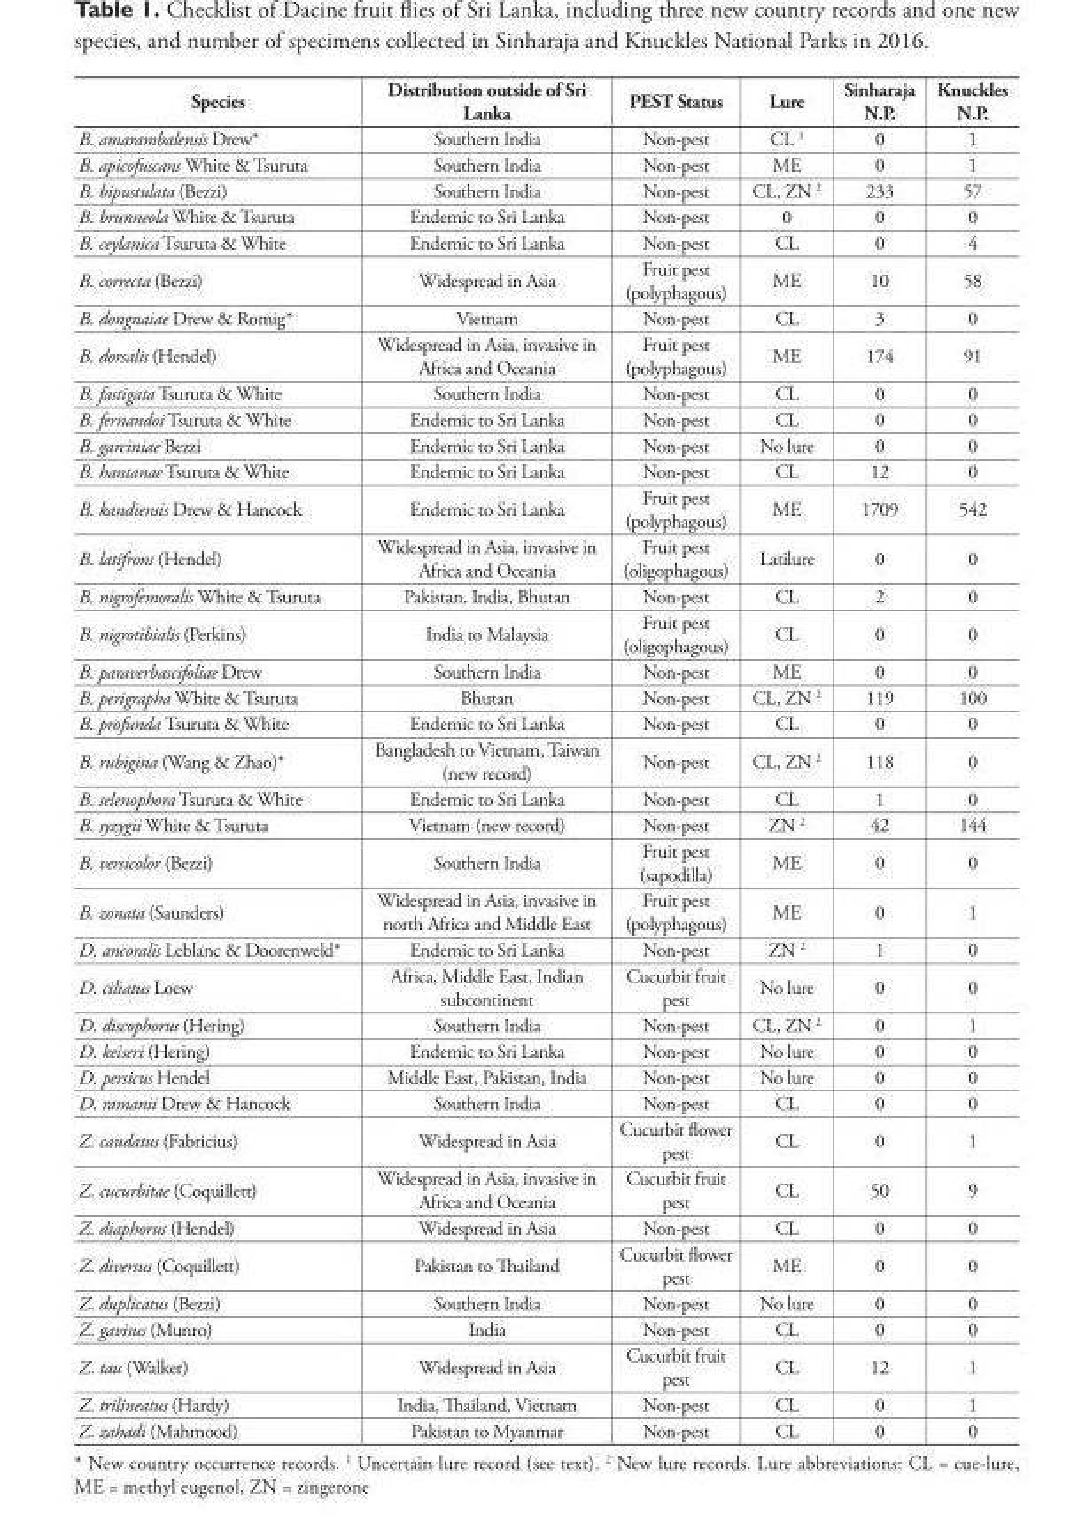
<table><thead><tr><td>Species</td><td>Distribution outside of Sri Lanka</td><td>PEST Status</td><td>Lure</td><td>Sinharaja N.P.</td><td>Knuckles N.P.</td></tr></thead><tbody><tr><td>B. amarambalensis Drew*</td><td>Southern India</td><td>Non-pest</td><td>CL <sup>1</sup></td><td>0</td><td>1</td></tr><tr><td>B. apicofuscans White &amp; Tsuruta</td><td>Southern India</td><td>Non-pest</td><td>ME</td><td>0</td><td>1</td></tr><tr><td>B. bipustulata (Bezzi)</td><td>Southern India</td><td>Non-pest</td><td>CL, ZN <sup>2</sup></td><td>233</td><td>57</td></tr><tr><td>B. brunneola White &amp; Tsuruta</td><td>Endemic to Sri Lanka</td><td>Non-pest</td><td>0</td><td>0</td><td>0</td></tr><tr><td>B. ceylanica Tsuruta &amp; White</td><td>Endemic to Sri Lanka</td><td>Non-pest</td><td>CL</td><td>0</td><td>4</td></tr><tr><td>B. correcta (Bezzi)</td><td>Widespread in Asia</td><td>Fruit pest (polyphagous)</td><td>ME</td><td>10</td><td>58</td></tr><tr><td>B. dongnaiae Drew &amp; Romig*</td><td>Vietnam</td><td>Non-pest</td><td>CL</td><td>3</td><td>0</td></tr><tr><td>B. dorsalis (Hendel)</td><td>Widespread in Asia, invasive in Africa and Oceania</td><td>Fruit pest (polyphagous)</td><td>ME</td><td>174</td><td>91</td></tr><tr><td>B. fastigata Tsuruta &amp; White</td><td>Southern India</td><td>Non-pest</td><td>CL</td><td>0</td><td>0</td></tr><tr><td>B. fernandoi Tsuruta &amp; White</td><td>Endemic to Sri Lanka</td><td>Non-pest</td><td>CL</td><td>0</td><td>0</td></tr><tr><td>B. garciniae Bezzi</td><td>Endemic to Sri Lanka</td><td>Non-pest</td><td>No lure</td><td>0</td><td>0</td></tr><tr><td>B. hantanae Tsuruta &amp; White</td><td>Endemic to Sri Lanka</td><td>Non-pest</td><td>CL</td><td>12</td><td>0</td></tr><tr><td>B. kandiensis Drew &amp; Hancock</td><td>Endemic to Sri Lanka</td><td>Fruit pest (polyphagous)</td><td>ME</td><td>1709</td><td>542</td></tr><tr><td>B. latifrons (Hendel)</td><td>Widespread in Asia, invasive in Africa and Oceania</td><td>Fruit pest (oligophagous)</td><td>Latilure</td><td>0</td><td>0</td></tr><tr><td>B. nigrofemoralis White &amp; Tsuruta</td><td>Pakistan, India, Bhutan</td><td>Non-pest</td><td>CL</td><td>2</td><td>0</td></tr><tr><td>B. nigrotibialis (Perkins)</td><td>India to Malaysia</td><td>Fruit pest (oligophagous)</td><td>CL</td><td>0</td><td>0</td></tr><tr><td>B. paraverbascifoliae Drew</td><td>Southern India</td><td>Non-pest</td><td>ME</td><td>0</td><td>0</td></tr><tr><td>B. perigrapha White &amp; Tsuruta</td><td>Bhutan</td><td>Non-pest</td><td>CL, ZN <sup>2</sup></td><td>119</td><td>100</td></tr><tr><td>B. profunda Tsuruta &amp; White</td><td>Endemic to Sri Lanka</td><td>Non-pest</td><td>CL</td><td>0</td><td>0</td></tr><tr><td>B. rubigina (Wang &amp; Zhao)*</td><td>Bangladesh to Vietnam, Taiwan (new record)</td><td>Non-pest</td><td>CL, ZN <sup>2</sup></td><td>118</td><td>0</td></tr><tr><td>B. selenophora Tsuruta &amp; White</td><td>Endemic to Sri Lanka</td><td>Non-pest</td><td>CL</td><td>1</td><td>0</td></tr><tr><td>B. syzygii White &amp; Tsuruta</td><td>Vietnam (new record)</td><td>Non-pest</td><td>ZN <sup>2</sup></td><td>42</td><td>144</td></tr><tr><td>B. versicolor (Bezzi)</td><td>Southern India</td><td>Fruit pest (sapodilla)</td><td>ME</td><td>0</td><td>0</td></tr><tr><td>B. zonata (Saunders)</td><td>Widespread in Asia, invasive in north Africa and Middle East</td><td>Fruit pest (polyphagous)</td><td>ME</td><td>0</td><td>1</td></tr><tr><td>D. ancoralis Leblanc &amp; Doorenweld*</td><td>Endemic to Sri Lanka</td><td>Non-pest</td><td>ZN <sup>2</sup></td><td>1</td><td>0</td></tr><tr><td>D. ciliatus Loew</td><td>Africa, Middle East, Indian subcontinent</td><td>Cucurbit fruit pest</td><td>No lure</td><td>0</td><td>0</td></tr><tr><td>D. discophorus (Hering)</td><td>Southern India</td><td>Non-pest</td><td>CL, ZN <sup>2</sup></td><td>0</td><td>1</td></tr><tr><td>D. keiseri (Hering)</td><td>Endemic to Sri Lanka</td><td>Non-pest</td><td>No lure</td><td>0</td><td>0</td></tr><tr><td>D. persicus Hendel</td><td>Middle East, Pakistan, India</td><td>Non-pest</td><td>No lure</td><td>0</td><td>0</td></tr><tr><td>D. ramanii Drew &amp; Hancock</td><td>Southern India</td><td>Non-pest</td><td>CL</td><td>0</td><td>0</td></tr><tr><td>Z. caudatus (Fabricius)</td><td>Widespread in Asia</td><td>Cucurbit flower pest</td><td>CL</td><td>0</td><td>1</td></tr><tr><td>Z. cucurbitae (Coquillett)</td><td>Widespread in Asia, invasive in Africa and Oceania</td><td>Cucurbit fruit pest</td><td>CL</td><td>50</td><td>9</td></tr><tr><td>Z. diaphorus (Hendel)</td><td>Widespread in Asia</td><td>Non-pest</td><td>CL</td><td>0</td><td>0</td></tr><tr><td>Z. diversus (Coquillett)</td><td>Pakistan to Thailand</td><td>Cucurbit flower pest</td><td>ME</td><td>0</td><td>0</td></tr><tr><td>Z. duplicatus (Bezzi)</td><td>Southern India</td><td>Non-pest</td><td>No lure</td><td>0</td><td>0</td></tr><tr><td>Z. gavisus (Munro)</td><td>India</td><td>Non-pest</td><td>CL</td><td>0</td><td>0</td></tr><tr><td>Z. tau (Walker)</td><td>Widespread in Asia</td><td>Cucurbit fruit pest</td><td>CL</td><td>12</td><td>1</td></tr><tr><td>Z. trilineatus (Hardy)</td><td>India, Thailand, Vietnam</td><td>Non-pest</td><td>CL</td><td>0</td><td>1</td></tr><tr><td>Z. zahadi (Mahmood)</td><td>Pakistan to Myanmar</td><td>Non-pest</td><td>CL</td><td>0</td><td>0</td></tr></tbody></table>